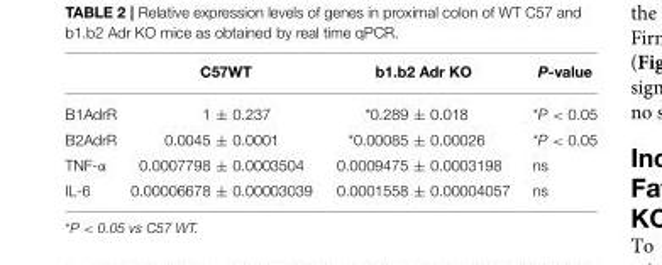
<table><thead><tr><td></td><td>C57WT</td><td>b1.b2 Adr KO</td><td>P-value</td></tr></thead><tbody><tr><td>B1AdrR</td><td>1 ± 0.237</td><td>*0.289 ± 0.018</td><td>*P &lt; 0.05</td></tr><tr><td>B2AdrR</td><td>0.0045 ± 0.0001</td><td>*0.00085 ± 0.00026</td><td>*P &lt; 0.05</td></tr><tr><td>TNF-α</td><td>0.0007798 ± 0.0003504</td><td>0.0009475 ± 0.0003198</td><td>ns</td></tr><tr><td>IL-6</td><td>0.00006678 ± 0.00003039</td><td>0.0001558 ± 0.00004057</td><td>ns</td></tr></tbody></table>